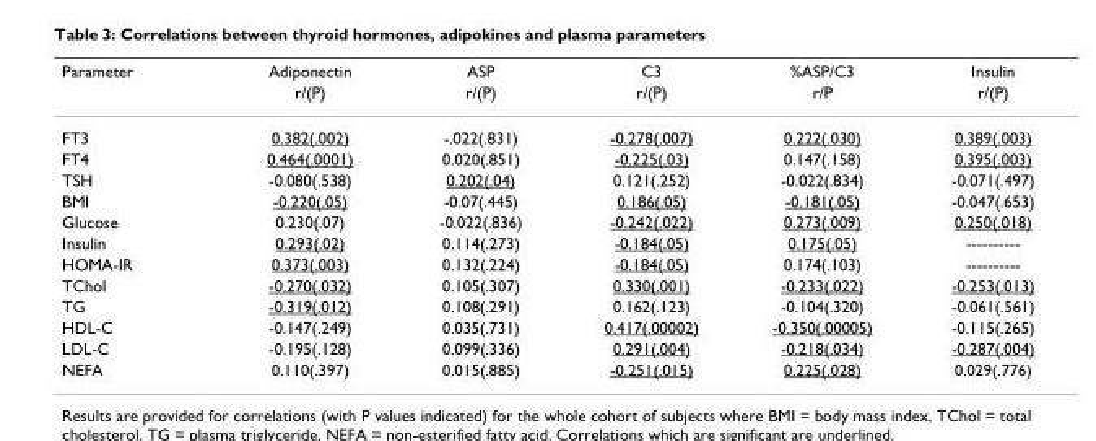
<table><thead><tr><td rowspan="2">Parameter</td><td rowspan="2">Adiponectin r/(P)</td><td rowspan="2">ASP r/(P)</td><td rowspan="2">C3 r/(P)</td><td rowspan="2">%ASP/C3 r/P</td><td rowspan="2">Insulin r/(P)</td></tr><tr></tr></thead><tbody><tr><td>FT3</td><td>0.382(.002)</td><td>-.022(.831)</td><td>-0.278(.007)</td><td>0.222(.030)</td><td>0.389(.003)</td></tr><tr><td>FT4</td><td>0.464(.0001)</td><td>0.020(.851)</td><td>-0.225(.03)</td><td>0.147(.158)</td><td>0.395(.003)</td></tr><tr><td>TSH</td><td>-0.080(.538)</td><td>0.202(.04)</td><td>0.121(.252)</td><td>-0.022(.834)</td><td>-0.071(.497)</td></tr><tr><td>BMI</td><td>-0.220(.05)</td><td>-0.07(.445)</td><td>0.186(.05)</td><td>-0.181(.05)</td><td>-0.047(.653)</td></tr><tr><td>Glucose</td><td>0.230(.07)</td><td>-0.022(.836)</td><td>-0.242(.022)</td><td>0.273(.009)</td><td>0.250(.018)</td></tr><tr><td>Insulin</td><td>0.293(.02)</td><td>0.114(.273)</td><td>-0.184(.05)</td><td>0.175(.05)</td><td>----------</td></tr><tr><td>HOMA-IR</td><td>0.373(.003)</td><td>0.132(.224)</td><td>-0.184(.05)</td><td>0.174(.103)</td><td>----------</td></tr><tr><td>TChol</td><td>-0.270(.032)</td><td>0.105(.307)</td><td>0.330(.001)</td><td>-0.233(.022)</td><td>-0.253(.013)</td></tr><tr><td>TG</td><td>-0.319(.012)</td><td>0.108(.291)</td><td>0.162(.123)</td><td>-0.104(.320)</td><td>-0.061(.561)</td></tr><tr><td>HDL-C</td><td>-0.147(.249)</td><td>0.035(.731)</td><td>0.417(.00002)</td><td>-0.350(.00005)</td><td>-0.115(.265)</td></tr><tr><td>LDL-C</td><td>-0.195(.128)</td><td>0.099(.336)</td><td>0.291(.004)</td><td>-0.218(.034)</td><td>-0.287(.004)</td></tr><tr><td>NEFA</td><td>0.110(.397)</td><td>0.015(.885)</td><td>-0.251(.015)</td><td>0.225(.028)</td><td>0.029(.776)</td></tr></tbody></table>